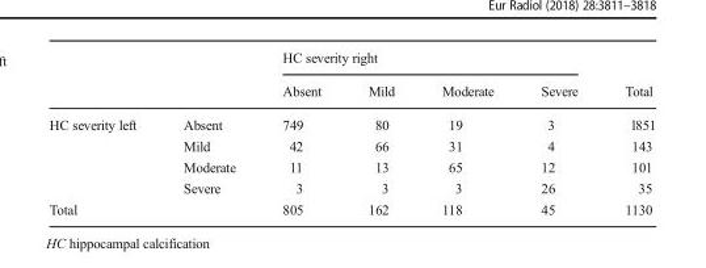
<table><thead><tr><td rowspan="2"></td><td rowspan="2"></td><td colspan="4">HC severity right</td><td rowspan="2">Total</td></tr><tr><td>Absent</td><td>Mild</td><td>Moderate</td><td>Severe</td></tr></thead><tbody><tr><td rowspan="4">HC severity left</td><td>Absent</td><td>749</td><td>80</td><td>19</td><td>3</td><td>l851</td></tr><tr><td>Mild</td><td>42</td><td>66</td><td>31</td><td>4</td><td>143</td></tr><tr><td>Moderate</td><td>11</td><td>13</td><td>65</td><td>12</td><td>101</td></tr><tr><td>Severe</td><td>3</td><td>3</td><td>3</td><td>26</td><td>35</td></tr><tr><td>Total</td><td></td><td>805</td><td>162</td><td>118</td><td>45</td><td>1130</td></tr></tbody></table>